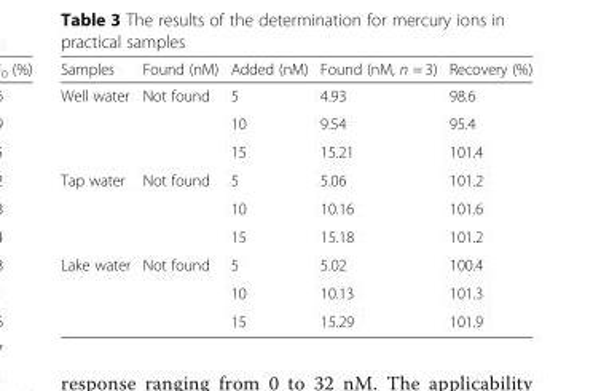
<table><thead><tr><td>Samples</td><td>Found (nM)</td><td>Added (nM)</td><td>Found (nM, n = 3)</td><td>Recovery (%)</td></tr></thead><tbody><tr><td rowspan="3">Well water</td><td rowspan="3">Not found</td><td>5</td><td>4.93</td><td>98.6</td></tr><tr><td>10</td><td>9.54</td><td>95.4</td></tr><tr><td>15</td><td>15.21</td><td>101.4</td></tr><tr><td rowspan="3">Tap water</td><td rowspan="3">Not found</td><td>5</td><td>5.06</td><td>101.2</td></tr><tr><td>10</td><td>10.16</td><td>101.6</td></tr><tr><td>15</td><td>15.18</td><td>101.2</td></tr><tr><td rowspan="3">Lake water</td><td rowspan="3">Not found</td><td>5</td><td>5.02</td><td>100.4</td></tr><tr><td>10</td><td>10.13</td><td>101.3</td></tr><tr><td>15</td><td>15.29</td><td>101.9</td></tr></tbody></table>